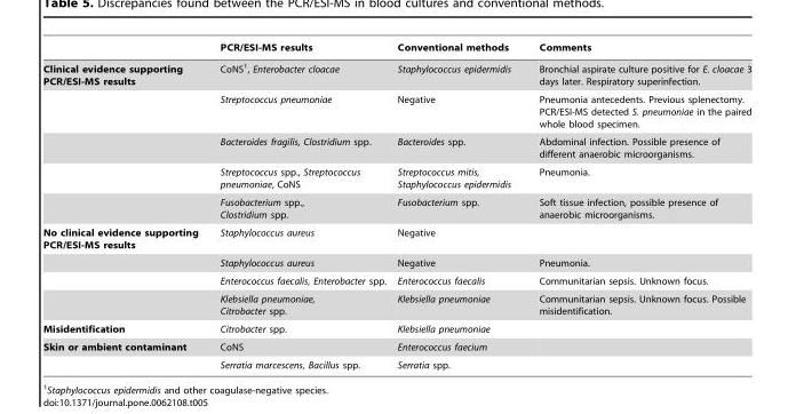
<table><thead><tr><td></td><td>PCR/ESI-MS results</td><td>Conventional methods</td><td>Comments</td></tr></thead><tbody><tr><td rowspan="5">Clinical evidence supporting PCR/ESI-MS results</td><td>CoNS<sup>1</sup>, Enterobacter cloacae</td><td>Staphylococcus epidermidis</td><td>Bronchial aspirate culture positive for E. cloacae 3 days later. Respiratory superinfection.</td></tr><tr><td>Streptococcus pneumoniae</td><td>Negative</td><td>Pneumonia antecedents. Previous splenectomy. PCR/ESI-MS detected S. pneumoniae in the paired whole blood specimen.</td></tr><tr><td>Bacteroides fragilis, Clostridium spp.</td><td>Bacteroides spp.</td><td>Abdominal infection. Possible presence of different anaerobic microorganisms.</td></tr><tr><td>Streptococcus spp., Streptococcus pneumoniae, CoNS</td><td>Streptococcus mitis, Staphylococcus epidermidis</td><td>Pneumonia.</td></tr><tr><td>Fusobacterium spp., Clostridium spp.</td><td>Fusobacterium spp.</td><td>Soft tissue infection, possible presence of anaerobic microorganisms.</td></tr><tr><td rowspan="4">No clinical evidence supporting PCR/ESI-MS results</td><td>Staphylococcus aureus</td><td>Negative</td><td></td></tr><tr><td>Staphylococcus aureus</td><td>Negative</td><td>Pneumonia.</td></tr><tr><td>Enterococcus faecalis, Enterobacter spp.</td><td>Enterococcus faecalis</td><td>Communitarian sepsis. Unknown focus.</td></tr><tr><td>Klebsiella pneumoniae, Citrobacter spp.</td><td>Klebsiella pneumoniae</td><td>Communitarian sepsis. Unknown focus. Possible misidentification.</td></tr><tr><td>Misidentification</td><td>Citrobacter spp.</td><td>Klebsiella pneumoniae</td><td></td></tr><tr><td rowspan="2">Skin or ambient contaminant</td><td>CoNS</td><td>Enterococcus faecium</td><td></td></tr><tr><td>Serratia marcescens, Bacillus spp.</td><td>Serratia spp.</td><td></td></tr></tbody></table>